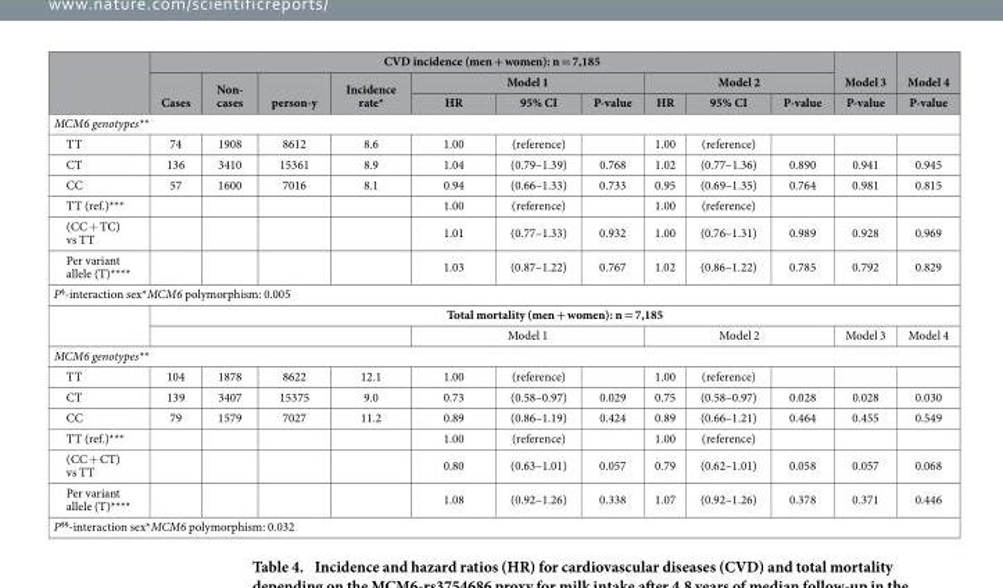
<table><thead><tr><td rowspan="3"></td><td colspan="10">CVD incidence (men + women): n = 7,185</td><td rowspan="3">Model 3 P-value</td><td rowspan="3">Model 4 P-value</td></tr><tr><td rowspan="2">Cases</td><td rowspan="2">Non- cases</td><td rowspan="2">person-y</td><td rowspan="2">Incidence rate*</td><td colspan="3">Model 1</td><td colspan="3">Model 2</td></tr><tr><td>HR</td><td>95% CI</td><td>P-value</td><td>HR</td><td>95% CI</td><td>P-value</td></tr></thead><tbody><tr><td colspan="13">MCM6 genotypes**</td></tr><tr><td>TT</td><td>74</td><td>1908</td><td>8612</td><td>8.6</td><td>1.00</td><td>(reference)</td><td></td><td>1.00</td><td>(reference)</td><td></td><td></td><td></td></tr><tr><td>CT</td><td>136</td><td>3410</td><td>15361</td><td>8.9</td><td>1.04</td><td>(0.79–1.39)</td><td>0.768</td><td>1.02</td><td>(0.77–1.36)</td><td>0.890</td><td>0.941</td><td>0.945</td></tr><tr><td>CC</td><td>57</td><td>1600</td><td>7016</td><td>8.1</td><td>0.94</td><td>(0.66–1.33)</td><td>0.733</td><td>0.95</td><td>(0.69–1.35)</td><td>0.764</td><td>0.981</td><td>0.815</td></tr><tr><td>TT (ref.)***</td><td></td><td></td><td></td><td></td><td>1.00</td><td>(reference)</td><td></td><td>1.00</td><td>(reference)</td><td></td><td></td><td></td></tr><tr><td>(CC + TC) vs TT</td><td></td><td></td><td></td><td></td><td>1.01</td><td>(0.77–1.33)</td><td>0.932</td><td>1.00</td><td>(0.76–1.31)</td><td>0.989</td><td>0.928</td><td>0.969</td></tr><tr><td>Per variant allele (T)****</td><td></td><td></td><td></td><td></td><td>1.03</td><td>(0.87–1.22)</td><td>0.767</td><td>1.02</td><td>(0.86–1.22)</td><td>0.785</td><td>0.792</td><td>0.829</td></tr><tr><td colspan="13">P<sup>§</sup>-interaction sex*MCM6 polymorphism: 0.005</td></tr><tr><td rowspan="2"></td><td colspan="12">Total mortality (men + women): n = 7,185</td></tr><tr><td colspan="4"></td><td colspan="3">Model 1</td><td colspan="3">Model 2</td><td>Model 3</td><td>Model 4</td></tr><tr><td colspan="13">MCM6 genotypes**</td></tr><tr><td>TT</td><td>104</td><td>1878</td><td>8622</td><td>12.1</td><td>1.00</td><td>(reference)</td><td></td><td>1.00</td><td>(reference)</td><td></td><td></td><td></td></tr><tr><td>CT</td><td>139</td><td>3407</td><td>15375</td><td>9.0</td><td>0.73</td><td>(0.58–0.97)</td><td>0.029</td><td>0.75</td><td>(0.58–0.97)</td><td>0.028</td><td>0.028</td><td>0.030</td></tr><tr><td>CC</td><td>79</td><td>1579</td><td>7027</td><td>11.2</td><td>0.89</td><td>(0.86–1.19)</td><td>0.424</td><td>0.89</td><td>(0.66–1.21)</td><td>0.464</td><td>0.455</td><td>0.549</td></tr><tr><td>TT (ref.)***</td><td></td><td></td><td></td><td></td><td>1.00</td><td>(reference)</td><td></td><td>1.00</td><td>(reference)</td><td></td><td></td><td></td></tr><tr><td>(CC + CT) vs TT</td><td></td><td></td><td></td><td></td><td>0.80</td><td>(0.63–1.01)</td><td>0.057</td><td>0.79</td><td>(0.62–1.01)</td><td>0.058</td><td>0.057</td><td>0.068</td></tr><tr><td>Per variant allele (T)****</td><td></td><td></td><td></td><td></td><td>1.08</td><td>(0.92–1.26)</td><td>0.338</td><td>1.07</td><td>(0.92–1.26)</td><td>0.378</td><td>0.371</td><td>0.446</td></tr><tr><td colspan="13">P<sup>§§</sup>-interaction sex*MCM6 polymorphism: 0.032</td></tr></tbody></table>